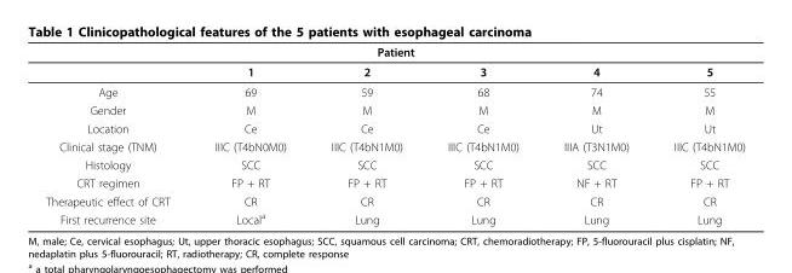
<table><thead><tr><td colspan="6">Patient</td></tr><tr><td></td><td>1</td><td>2</td><td>3</td><td>4</td><td>5</td></tr></thead><tbody><tr><td>Age</td><td>69</td><td>59</td><td>68</td><td>74</td><td>55</td></tr><tr><td>Gender</td><td>M</td><td>M</td><td>M</td><td>M</td><td>M</td></tr><tr><td>Location</td><td>Ce</td><td>Ce</td><td>Ce</td><td>Ut</td><td>Ut</td></tr><tr><td>Clinical stage (TNM)</td><td>IIIC (T4bN0M0)</td><td>IIIC (T4bN1M0)</td><td>IIIC (T4bN1M0)</td><td>IIIA (T3N1M0)</td><td>IIIC (T4bN1M0)</td></tr><tr><td>Histology</td><td>SCC</td><td>SCC</td><td>SCC</td><td>SCC</td><td>SCC</td></tr><tr><td>CRT regimen</td><td>FP + RT</td><td>FP + RT</td><td>FP + RT</td><td>NF + RT</td><td>FP + RT</td></tr><tr><td>Therapeutic effect of CRT</td><td>CR</td><td>CR</td><td>CR</td><td>CR</td><td>CR</td></tr><tr><td>First recurrence site</td><td>Local<sup>a</sup></td><td>Lung</td><td>Lung</td><td>Lung</td><td>Lung</td></tr></tbody></table>